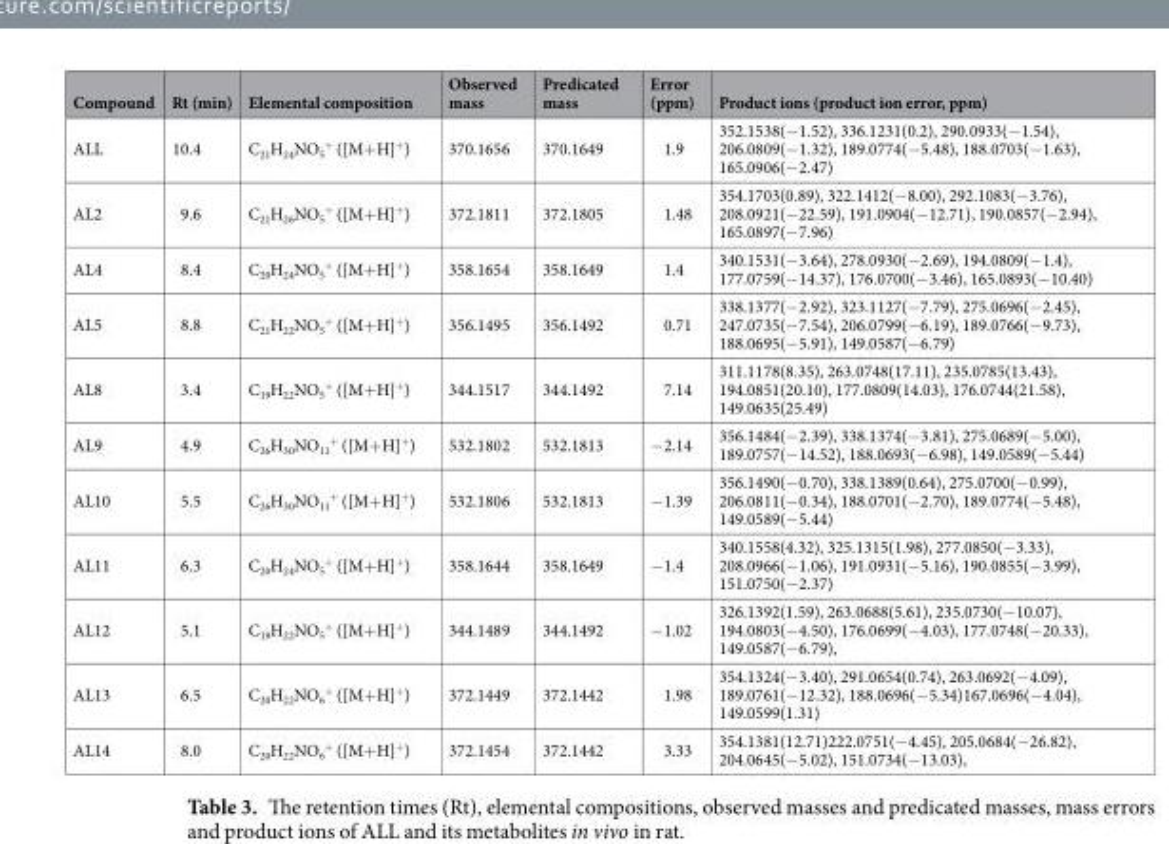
<table><thead><tr><td>Compound</td><td>Rt (min)</td><td>Elemental composition</td><td>Observed mass</td><td>Predicated mass</td><td>Error (ppm)</td><td>Product ions (product ion error, ppm)</td></tr></thead><tbody><tr><td>ALL</td><td>10.4</td><td>C<sub>21</sub>H<sub>24</sub>NO<sub>5</sub> <sup>+</sup> ([M+H]<sup>+</sup>)</td><td>370.1656</td><td>370.1649</td><td>1.9</td><td>352.1538(−1.52), 336.1231(0.2), 290.0933(−1.54), 206.0809(−1.32), 189.0774(−5.48), 188.0703(−1.63), 165.0906(−2.47)</td></tr><tr><td>AL2</td><td>9.6</td><td>C<sub>21</sub>H<sub>26</sub>NO<sub>5</sub> <sup>+</sup> ([M+H]<sup>+</sup>)</td><td>372.1811</td><td>372.1805</td><td>1.48</td><td>354.1703(0.89), 322.1412(−8.00), 292.1083(−3.76), 208.0921(−22.59), 191.0904(−12.71), 190.0857(−2.94), 165.0897(−7.96)</td></tr><tr><td>AL4</td><td>8.4</td><td>C<sub>20</sub>H<sub>24</sub>NO<sub>5</sub> <sup>+</sup> ([M+H]<sup>+</sup>)</td><td>358.1654</td><td>358.1649</td><td>1.4</td><td>340.1531(−3.64), 278.0930(−2.69), 194.0809(−1.4), 177.0759(−14.37), 176.0700(−3.46), 165.0893(−10.40)</td></tr><tr><td>AL5</td><td>8.8</td><td>C<sub>21</sub>H<sub>22</sub>NO<sub>5</sub> <sup>+</sup> ([M+H]<sup>+</sup>)</td><td>356.1495</td><td>356.1492</td><td>0.71</td><td>338.1377(−2.92), 323.1127(−7.79), 275.0696(−2.45), 247.0735(−7.54), 206.0799(−6.19), 189.0766(−9.73), 188.0695(−5.91), 149.0587(−6.79)</td></tr><tr><td>AL8</td><td>3.4</td><td>C<sub>19</sub>H<sub>22</sub>NO<sub>5</sub> <sup>+</sup> ([M+H]<sup>+</sup>)</td><td>344.1517</td><td>344.1492</td><td>7.14</td><td>311.1178(8.35), 263.0748(17.11), 235.0785(13.43), 194.0851(20.10), 177.0809(14.03), 176.0744(21.58), 149.0635(25.49)</td></tr><tr><td>AL9</td><td>4.9</td><td>C<sub>26</sub>H<sub>30</sub>NO<sub>11</sub> <sup>+</sup> ([M+H]<sup>+</sup>)</td><td>532.1802</td><td>532.1813</td><td>−2.14</td><td>356.1484(−2.39), 338.1374(−3.81), 275.0689(−5.00), 189.0757(−14.52), 188.0693(−6.98), 149.0589(−5.44)</td></tr><tr><td>AL10</td><td>5.5</td><td>C<sub>26</sub>H<sub>30</sub>NO<sub>11</sub> <sup>+</sup> ([M+H]<sup>+</sup>)</td><td>532.1806</td><td>532.1813</td><td>−1.39</td><td>356.1490(−0.70), 338.1389(0.64), 275.0700(−0.99), 206.0811(−0.34), 188.0701(−2.70), 189.0774(−5.48), 149.0589(−5.44)</td></tr><tr><td>AL11</td><td>6.3</td><td>C<sub>20</sub>H<sub>24</sub>NO<sub>5</sub> <sup>+</sup> ([M+H]<sup>+</sup>)</td><td>358.1644</td><td>358.1649</td><td>−1.4</td><td>340.1558(4.32), 325.1315(1.98), 277.0850(−3.33), 208.0966(−1.06), 191.0931(−5.16), 190.0855(−3.99), 151.0750(−2.37)</td></tr><tr><td>AL12</td><td>5.1</td><td>C<sub>19</sub>H<sub>22</sub>NO<sub>5</sub> <sup>+</sup> ([M+H]<sup>+</sup>)</td><td>344.1489</td><td>344.1492</td><td>−1.02</td><td>326.1392(1.59), 263.0688(5.61), 235.0730(−10.07), 194.0803(−4.50), 176.0699(−4.03), 177.0748(−20.33), 149.0587(−6.79),</td></tr><tr><td>AL13</td><td>6.5</td><td>C<sub>20</sub>H<sub>22</sub>NO<sub>6</sub> <sup>+</sup> ([M+H]<sup>+</sup>)</td><td>372.1449</td><td>372.1442</td><td>1.98</td><td>354.1324(−3.40), 291.0654(0.74), 263.0692(−4.09), 189.0761(−12.32), 188.0696(−5.34)167.0696(−4.04), 149.0599(1.31)</td></tr><tr><td>AL14</td><td>8.0</td><td>C<sub>20</sub>H<sub>22</sub>NO<sub>6</sub> <sup>+</sup> ([M+H]<sup>+</sup>)</td><td>372.1454</td><td>372.1442</td><td>3.33</td><td>354.1381(12.71)222.0751(−4.45), 205.0684(−26.82), 204.0645(−5.02), 151.0734(−13.03),</td></tr></tbody></table>